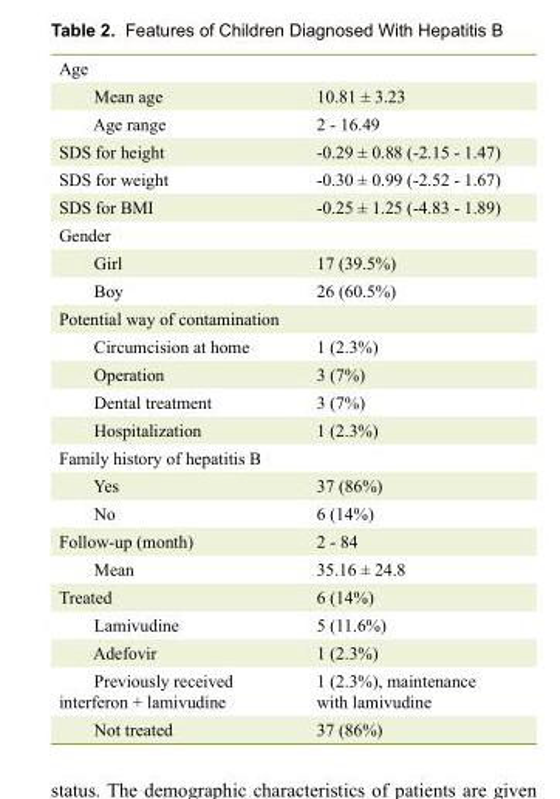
<table><tbody><tr><td colspan="2">Age</td></tr><tr><td>Mean age</td><td>10.81 ± 3.23</td></tr><tr><td>Age range</td><td>2 - 16.49</td></tr><tr><td>SDS for height</td><td>-0.29 ± 0.88 (-2.15 - 1.47)</td></tr><tr><td>SDS for weight</td><td>-0.30 ± 0.99 (-2.52 - 1.67)</td></tr><tr><td>SDS for BMI</td><td>-0.25 ± 1.25 (-4.83 - 1.89)</td></tr><tr><td colspan="2">Gender</td></tr><tr><td>Girl</td><td>17 (39.5%)</td></tr><tr><td>Boy</td><td>26 (60.5%)</td></tr><tr><td colspan="2">Potential way of contamination</td></tr><tr><td>Circumcision at home</td><td>1 (2.3%)</td></tr><tr><td>Operation</td><td>3 (7%)</td></tr><tr><td>Dental treatment</td><td>3 (7%)</td></tr><tr><td>Hospitalization</td><td>1 (2.3%)</td></tr><tr><td colspan="2">Family history of hepatitis B</td></tr><tr><td>Yes</td><td>37 (86%)</td></tr><tr><td>No</td><td>6 (14%)</td></tr><tr><td>Follow-up (month)</td><td>2 - 84</td></tr><tr><td>Mean</td><td>35.16 ± 24.8</td></tr><tr><td>Treated</td><td>6 (14%)</td></tr><tr><td>Lamivudine</td><td>5 (11.6%)</td></tr><tr><td>Adefovir</td><td>1 (2.3%)</td></tr><tr><td>Previously received interferon + lamivudine</td><td>1 (2.3%), maintenance with lamivudine</td></tr><tr><td>Not treated</td><td>37 (86%)</td></tr></tbody></table>